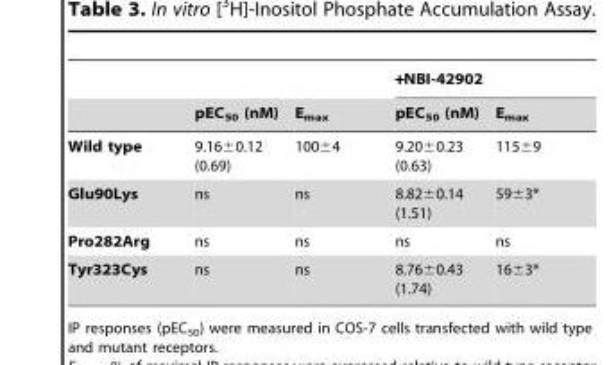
<table><thead><tr><td rowspan="2"></td><td rowspan="2">pEC<sub>50</sub> (nM)</td><td rowspan="2">E<sub>max</sub></td><td colspan="2">+NBI-42902</td></tr><tr><td>pEC<sub>50</sub> (nM)</td><td>E<sub>max</sub></td></tr></thead><tbody><tr><td>Wild type</td><td>9.16±0.12 (0.69)</td><td>100±4</td><td>9.20±0.23 (0.63)</td><td>115±9</td></tr><tr><td>Glu90Lys</td><td>ns</td><td>ns</td><td>8.82±0.14 (1.51)</td><td>59±3*</td></tr><tr><td>Pro282Arg</td><td>ns</td><td>ns</td><td>ns</td><td>ns</td></tr><tr><td>Tyr323Cys</td><td>ns</td><td>ns</td><td>8.76±0.43 (1.74)</td><td>16±3*</td></tr></tbody></table>